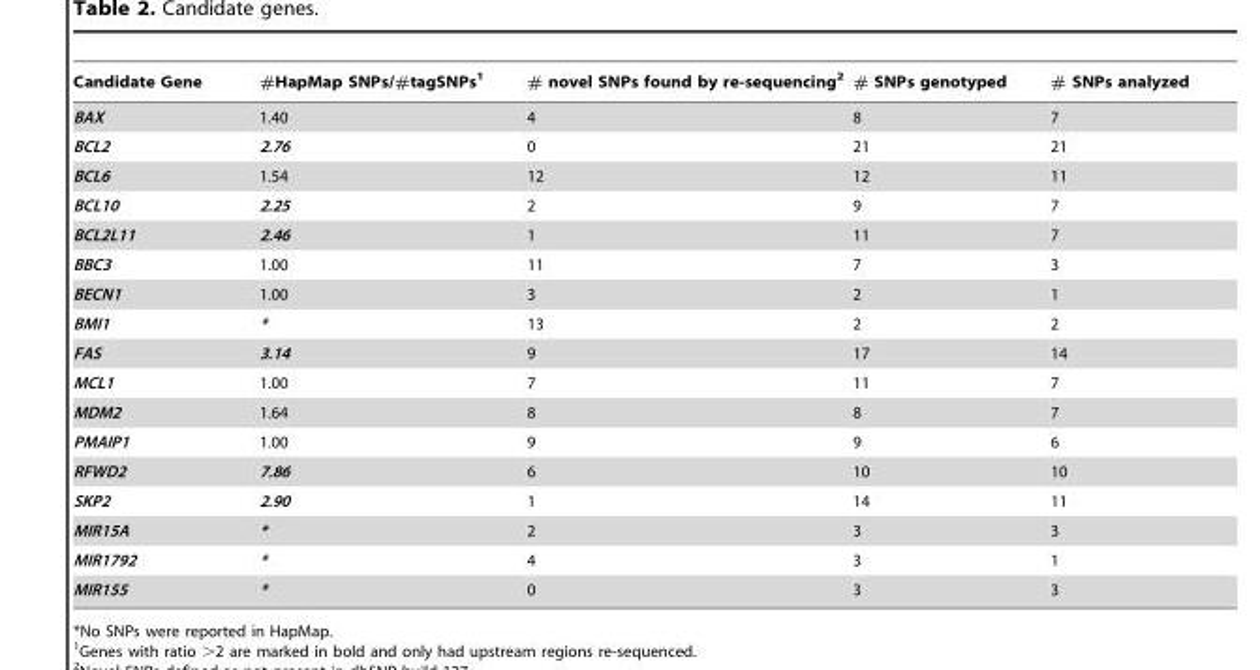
<table><thead><tr><td>Candidate Gene</td><td>#HapMap SNPs/#tagSNPs<sup>1</sup></td><td># novel SNPs found by re-sequencing<sup>2</sup></td><td># SNPs genotyped</td><td># SNPs analyzed</td></tr></thead><tbody><tr><td>BAX</td><td>1.40</td><td>4</td><td>8</td><td>7</td></tr><tr><td>BCL2</td><td>2.76</td><td>0</td><td>21</td><td>21</td></tr><tr><td>BCL6</td><td>1.54</td><td>12</td><td>12</td><td>11</td></tr><tr><td>BCL10</td><td>2.25</td><td>2</td><td>9</td><td>7</td></tr><tr><td>BCL2L11</td><td>2.46</td><td>1</td><td>11</td><td>7</td></tr><tr><td>BBC3</td><td>1.00</td><td>11</td><td>7</td><td>3</td></tr><tr><td>BECN1</td><td>1.00</td><td>3</td><td>2</td><td>1</td></tr><tr><td>BMI1</td><td>*</td><td>13</td><td>2</td><td>2</td></tr><tr><td>FAS</td><td>3.14</td><td>9</td><td>17</td><td>14</td></tr><tr><td>MCL1</td><td>1.00</td><td>7</td><td>11</td><td>7</td></tr><tr><td>MDM2</td><td>1.64</td><td>8</td><td>8</td><td>7</td></tr><tr><td>PMAIP1</td><td>1.00</td><td>9</td><td>9</td><td>6</td></tr><tr><td>RFWD2</td><td>7.86</td><td>6</td><td>10</td><td>10</td></tr><tr><td>SKP2</td><td>2.90</td><td>1</td><td>14</td><td>11</td></tr><tr><td>MIR15A</td><td>*</td><td>2</td><td>3</td><td>3</td></tr><tr><td>MIR1792</td><td>*</td><td>4</td><td>3</td><td>1</td></tr><tr><td>MIR155</td><td>*</td><td>0</td><td>3</td><td>3</td></tr></tbody></table>